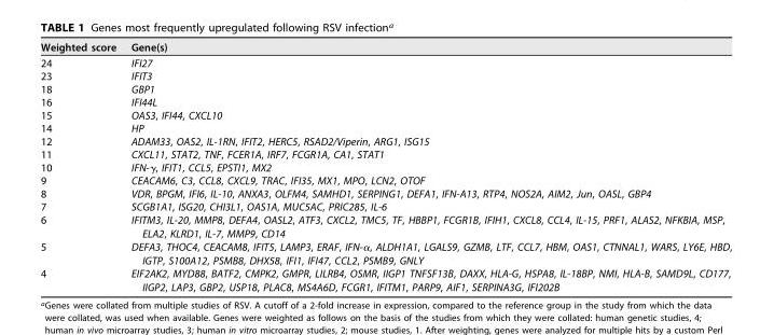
<table><thead><tr><td>Weighted score</td><td>Gene(s)</td></tr></thead><tbody><tr><td>24</td><td>IFI27</td></tr><tr><td>23</td><td>IFIT3</td></tr><tr><td>18</td><td>GBP1</td></tr><tr><td>16</td><td>IFI44L</td></tr><tr><td>15</td><td>OAS3, IFI44, CXCL10</td></tr><tr><td>14</td><td>HP</td></tr><tr><td>12</td><td>ADAM33, OAS2, IL-1RN, IFIT2, HERC5, RSAD2/Viperin, ARG1, ISG15</td></tr><tr><td>11</td><td>CXCL11, STAT2, TNF, FCER1A, IRF7, FCGR1A, CA1, STAT1</td></tr><tr><td>10</td><td>IFN-γ, IFIT1, CCL5, EPSTI1, MX2</td></tr><tr><td>9</td><td>CEACAM6, C3, CCL8, CXCL9, TRAC, IFI35, MX1, MPO, LCN2, OTOF</td></tr><tr><td>8</td><td>VDR, BPGM, IFI6, IL-10, ANXA3, OLFM4, SAMHD1, SERPING1, DEFA1, IFN-A13, RTP4, NOS2A, AIM2, Jun, OASL, GBP4</td></tr><tr><td>7</td><td>SCGB1A1, ISG20, CHI3L1, OAS1A, MUC5AC, PRIC285, IL-6</td></tr><tr><td>6</td><td>IFITM3, IL-20, MMP8, DEFA4, OASL2, ATF3, CXCL2, TMC5, TF, HBBP1, FCGR1B, IFIH1, CXCL8, CCL4, IL-15, PRF1, ALAS2, NFKBIA, MSP, ELA2, KLRD1, IL-7, MMP9, CD14</td></tr><tr><td>5</td><td>DEFA3, THOC4, CEACAM8, IFIT5, LAMP3, ERAF, IFN-α, ALDH1A1, LGALS9, GZMB, LTF, CCL7, HBM, OAS1, CTNNAL1, WARS, LY6E, HBD, IGTP, S100A12, PSMB8, DHX58, IFI1, IFI47, CCL2, PSMB9, GNLY</td></tr><tr><td>4</td><td>EIF2AK2, MYD88, BATF2, CMPK2, GMPR, LILRB4, OSMR, IIGP1 TNFSF13B, DAXX, HLA-G, HSPA8, IL-18BP, NMI, HLA-B, SAMD9L, CD177, IIGP2, LAP3, GBP2, USP18, PLAC8, MS4A6D, FCGR1, IFITM1, PARP9, AIF1, SERPINA3G, IFI202B</td></tr></tbody></table>